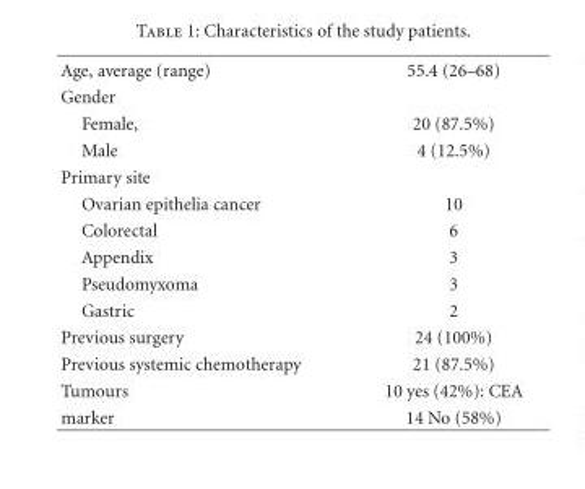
<table><tbody><tr><td>Age, average (range)</td><td>55.4 (26–68)</td></tr><tr><td colspan="2">Gender</td></tr><tr><td>Female,</td><td>20 (87.5%)</td></tr><tr><td>Male</td><td>4 (12.5%)</td></tr><tr><td colspan="2">Primary site</td></tr><tr><td>Ovarian epithelia cancer</td><td>10</td></tr><tr><td>Colorectal</td><td>6</td></tr><tr><td>Appendix</td><td>3</td></tr><tr><td>Pseudomyxoma</td><td>3</td></tr><tr><td>Gastric</td><td>2</td></tr><tr><td>Previous surgery</td><td>24 (100%)</td></tr><tr><td>Previous systemic chemotherapy</td><td>21 (87.5%)</td></tr><tr><td>Tumours</td><td>10 yes (42%): CEA</td></tr><tr><td>marker</td><td>14 No (58%)</td></tr></tbody></table>